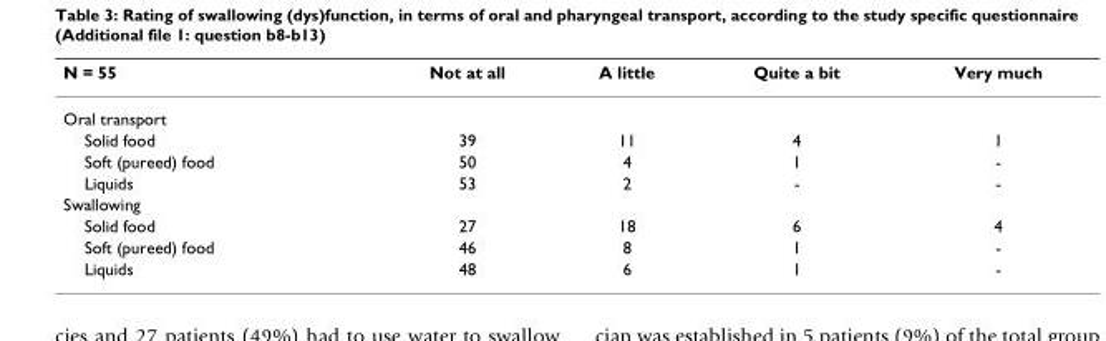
<table><thead><tr><td>N = 55</td><td>Not at all</td><td>A little</td><td>Quite a bit</td><td>Very much</td></tr></thead><tbody><tr><td colspan="5">Oral transport</td></tr><tr><td>Solid food</td><td>39</td><td>11</td><td>4</td><td>1</td></tr><tr><td>Soft (pureed) food</td><td>50</td><td>4</td><td>1</td><td>-</td></tr><tr><td>Liquids</td><td>53</td><td>2</td><td>-</td><td>-</td></tr><tr><td colspan="5">Swallowing</td></tr><tr><td>Solid food</td><td>27</td><td>18</td><td>6</td><td>4</td></tr><tr><td>Soft (pureed) food</td><td>46</td><td>8</td><td>1</td><td>-</td></tr><tr><td>Liquids</td><td>48</td><td>6</td><td>1</td><td>-</td></tr></tbody></table>